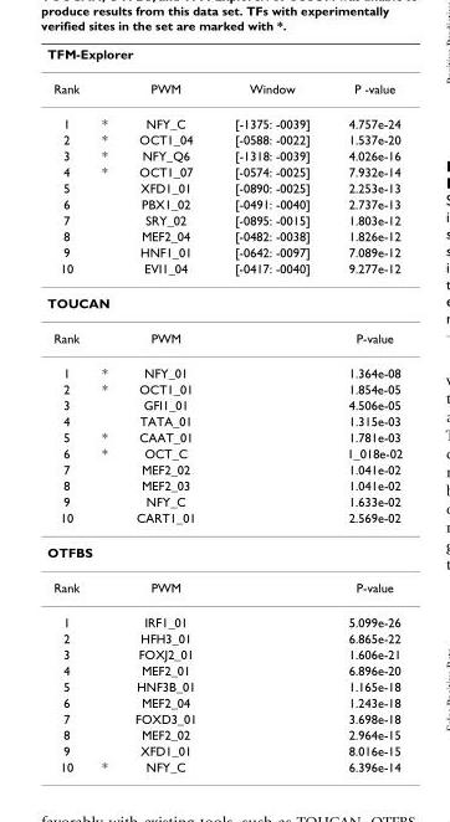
<table><thead><tr><td colspan="5">TFM-Explorer</td></tr><tr><td>Rank</td><td></td><td>PWM</td><td>Window</td><td>P -value</td></tr></thead><tbody><tr><td>1</td><td>*</td><td>NFY_C</td><td>[-1375: -0039]</td><td>4.757e-24</td></tr><tr><td>2</td><td>*</td><td>OCT1_04</td><td>[-0588: -0022]</td><td>1.537e-20</td></tr><tr><td>3</td><td>*</td><td>NFY_Q6</td><td>[-1318: -0039]</td><td>4.026e-16</td></tr><tr><td>4</td><td>*</td><td>OCT1_07</td><td>[-0574: -0025]</td><td>7.932e-14</td></tr><tr><td>5</td><td></td><td>XFD1_01</td><td>[-0890: -0025]</td><td>2.253e-13</td></tr><tr><td>6</td><td></td><td>PBX1_02</td><td>[-0491: -0040]</td><td>2.737e-13</td></tr><tr><td>7</td><td></td><td>SRY_02</td><td>[-0895: -0015]</td><td>1.803e-12</td></tr><tr><td>8</td><td></td><td>MEF2_04</td><td>[-0482: -0038]</td><td>1.826e-12</td></tr><tr><td>9</td><td></td><td>HNF1_01</td><td>[-0642: -0097]</td><td>7.089e-12</td></tr><tr><td>10</td><td></td><td>EVI1_04</td><td>[-0417: -0040]</td><td>9.277e-12</td></tr><tr><td colspan="5">TOUCAN</td></tr><tr><td>Rank</td><td></td><td>PWM</td><td></td><td>P-value</td></tr><tr><td>1</td><td>*</td><td>NFY_01</td><td></td><td>1.364e-08</td></tr><tr><td>2</td><td>*</td><td>OCT1_01</td><td></td><td>1.854e-05</td></tr><tr><td>3</td><td></td><td>GFI1_01</td><td></td><td>4.506e-05</td></tr><tr><td>4</td><td></td><td>TATA_01</td><td></td><td>1.315e-03</td></tr><tr><td>5</td><td>*</td><td>CAAT_01</td><td></td><td>1.781e-03</td></tr><tr><td>6</td><td>*</td><td>OCT_C</td><td></td><td>1_018e-02</td></tr><tr><td>7</td><td></td><td>MEF2_02</td><td></td><td>1.041e-02</td></tr><tr><td>8</td><td></td><td>MEF2_03</td><td></td><td>1.041e-02</td></tr><tr><td>9</td><td></td><td>NFY_C</td><td></td><td>1.633e-02</td></tr><tr><td>10</td><td></td><td>CART1_01</td><td></td><td>2.569e-02</td></tr><tr><td colspan="5">OTFBS</td></tr><tr><td>Rank</td><td></td><td>PWM</td><td></td><td>P-value</td></tr><tr><td>1</td><td></td><td>IRF1_01</td><td></td><td>5.099e-26</td></tr><tr><td>2</td><td></td><td>HFH3_01</td><td></td><td>6.865e-22</td></tr><tr><td>3</td><td></td><td>FOXJ2_01</td><td></td><td>1.606e-21</td></tr><tr><td>4</td><td></td><td>MEF2_01</td><td></td><td>6.896e-20</td></tr><tr><td>5</td><td></td><td>HNF3B_01</td><td></td><td>1.165e-18</td></tr><tr><td>6</td><td></td><td>MEF2_04</td><td></td><td>1.243e-18</td></tr><tr><td>7</td><td></td><td>FOXD3_01</td><td></td><td>3.698e-18</td></tr><tr><td>8</td><td></td><td>MEF2_02</td><td></td><td>2.964e-15</td></tr><tr><td>9</td><td></td><td>XFD1_01</td><td></td><td>8.016e-15</td></tr><tr><td>10</td><td>*</td><td>NFY_C</td><td></td><td>6.396e-14</td></tr></tbody></table>